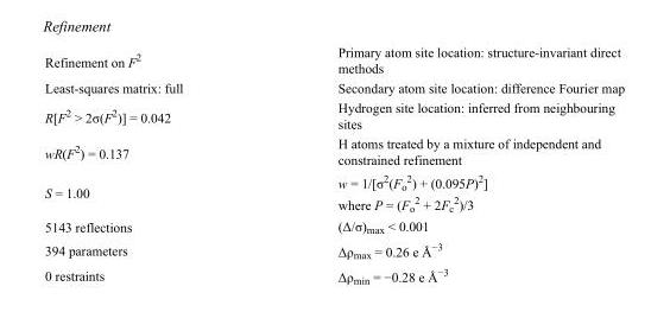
<table><tbody><tr><td>Refinement on F<sup>2</sup></td><td>Primary atom site location: structure-invariant direct methods</td></tr><tr><td>Least-squares matrix: full</td><td>Secondary atom site location: difference Fourier map</td></tr><tr><td>R[F<sup>2</sup> &gt; 2σ(F<sup>2</sup>)] = 0.042</td><td>Hydrogen site location: inferred from neighbouring sites</td></tr><tr><td>wR(F<sup>2</sup>) = 0.137</td><td>H atoms treated by a mixture of independent and constrained refinement</td></tr><tr><td>S = 1.00</td><td>w = 1/[σ<sup>2</sup>(F<sub>o</sub> <sup>2</sup>) + (0.095P)<sup>2</sup>] where P = (F<sub>o</sub> <sup>2</sup> + 2F<sub>c</sub> <sup>2</sup>)/3</td></tr><tr><td>5143 reflections</td><td>(Δ/σ)<sub>max</sub> &lt; 0.001</td></tr><tr><td>394 parameters</td><td>Δρ<sub>max</sub> = 0.26 e Å<sup>−3</sup></td></tr><tr><td>0 restraints</td><td>Δρ<sub>min</sub> = −0.28 e Å<sup>−3</sup></td></tr></tbody></table>